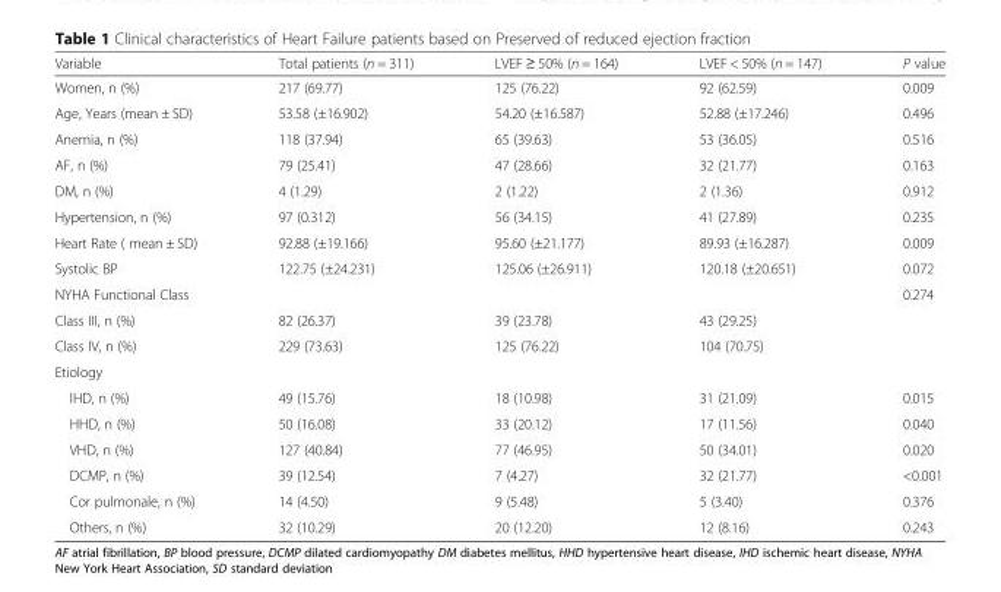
<table><thead><tr><td>Variable</td><td>Total patients (n = 311)</td><td>LVEF ≥ 50% (n = 164)</td><td>LVEF &lt; 50% (n = 147)</td><td>P value</td></tr></thead><tbody><tr><td>Women, n (%)</td><td>217 (69.77)</td><td>125 (76.22)</td><td>92 (62.59)</td><td>0.009</td></tr><tr><td>Age, Years (mean ± SD)</td><td>53.58 (±16.902)</td><td>54.20 (±16.587)</td><td>52.88 (±17.246)</td><td>0.496</td></tr><tr><td>Anemia, n (%)</td><td>118 (37.94)</td><td>65 (39.63)</td><td>53 (36.05)</td><td>0.516</td></tr><tr><td>AF, n (%)</td><td>79 (25.41)</td><td>47 (28.66)</td><td>32 (21.77)</td><td>0.163</td></tr><tr><td>DM, n (%)</td><td>4 (1.29)</td><td>2 (1.22)</td><td>2 (1.36)</td><td>0.912</td></tr><tr><td>Hypertension, n (%)</td><td>97 (0.312)</td><td>56 (34.15)</td><td>41 (27.89)</td><td>0.235</td></tr><tr><td>Heart Rate ( mean ± SD)</td><td>92.88 (±19.166)</td><td>95.60 (±21.177)</td><td>89.93 (±16.287)</td><td>0.009</td></tr><tr><td>Systolic BP</td><td>122.75 (±24.231)</td><td>125.06 (±26.911)</td><td>120.18 (±20.651)</td><td>0.072</td></tr><tr><td>NYHA Functional Class</td><td></td><td></td><td></td><td>0.274</td></tr><tr><td>Class III, n (%)</td><td>82 (26.37)</td><td>39 (23.78)</td><td>43 (29.25)</td><td></td></tr><tr><td>Class IV, n (%)</td><td>229 (73.63)</td><td>125 (76.22)</td><td>104 (70.75)</td><td></td></tr><tr><td colspan="5">Etiology</td></tr><tr><td>IHD, n (%)</td><td>49 (15.76)</td><td>18 (10.98)</td><td>31 (21.09)</td><td>0.015</td></tr><tr><td>HHD, n (%)</td><td>50 (16.08)</td><td>33 (20.12)</td><td>17 (11.56)</td><td>0.040</td></tr><tr><td>VHD, n (%)</td><td>127 (40.84)</td><td>77 (46.95)</td><td>50 (34.01)</td><td>0.020</td></tr><tr><td>DCMP, n (%)</td><td>39 (12.54)</td><td>7 (4.27)</td><td>32 (21.77)</td><td>&lt;0.001</td></tr><tr><td>Cor pulmonale, n (%)</td><td>14 (4.50)</td><td>9 (5.48)</td><td>5 (3.40)</td><td>0.376</td></tr><tr><td>Others, n (%)</td><td>32 (10.29)</td><td>20 (12.20)</td><td>12 (8.16)</td><td>0.243</td></tr></tbody></table>